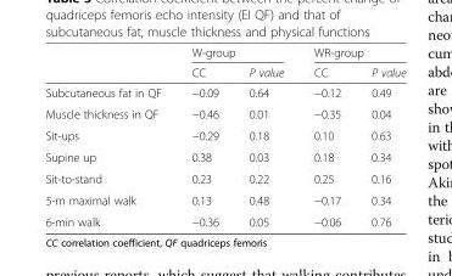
<table><thead><tr><td rowspan="2"></td><td colspan="2">W-group</td><td colspan="2">WR-group</td></tr><tr><td>CC</td><td>P value</td><td>CC</td><td>P value</td></tr></thead><tbody><tr><td>Subcutaneous fat in QF</td><td>−0.09</td><td>0.64</td><td>−0.12</td><td>0.49</td></tr><tr><td>Muscle thickness in QF</td><td>−0.46</td><td>0.01</td><td>−0.35</td><td>0.04</td></tr><tr><td>Sit-ups</td><td>−0.29</td><td>0.18</td><td>0.10</td><td>0.63</td></tr><tr><td>Supine up</td><td>0.38</td><td>0.03</td><td>0.18</td><td>0.34</td></tr><tr><td>Sit-to-stand</td><td>0.23</td><td>0.22</td><td>0.25</td><td>0.16</td></tr><tr><td>5-m maximal walk</td><td>0.13</td><td>0.48</td><td>−0.17</td><td>0.34</td></tr><tr><td>6-min walk</td><td>−0.36</td><td>0.05</td><td>−0.06</td><td>0.76</td></tr></tbody></table>